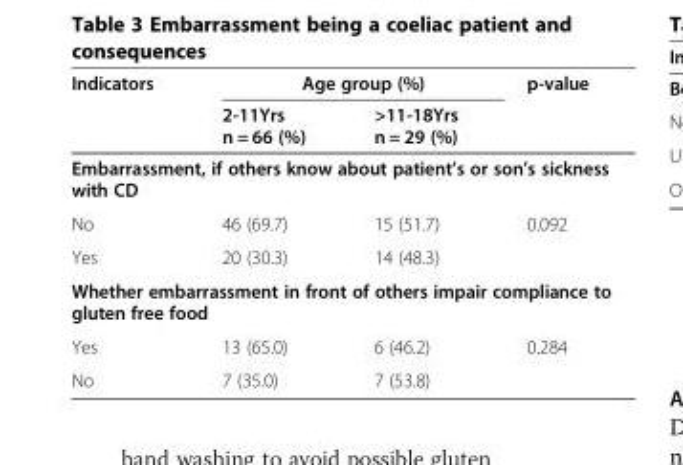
<table><thead><tr><td rowspan="2">Indicators</td><td colspan="2">Age group (%)</td><td rowspan="2">p-value</td></tr><tr><td>2-11Yrs n = 66 (%)</td><td>&gt;11-18Yrs n = 29 (%)</td></tr></thead><tbody><tr><td colspan="4">Embarrassment, if others know about patient’s or son’s sickness with CD</td></tr><tr><td>No</td><td>46 (69.7)</td><td>15 (51.7)</td><td rowspan="2">0.092</td></tr><tr><td>Yes</td><td>20 (30.3)</td><td>14 (48.3)</td></tr><tr><td colspan="4">Whether embarrassment in front of others impair compliance to gluten free food</td></tr><tr><td>Yes</td><td>13 (65.0)</td><td>6 (46.2)</td><td>0.284</td></tr><tr><td>No</td><td>7 (35.0)</td><td>7 (53.8)</td><td></td></tr></tbody></table>